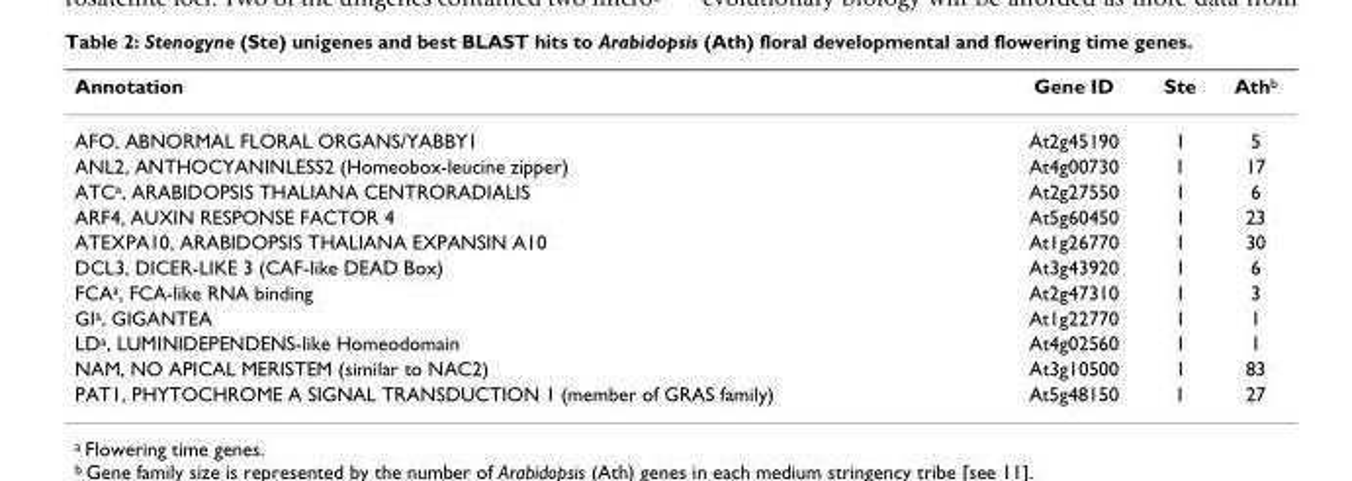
<table><thead><tr><td>Annotation</td><td>Gene ID</td><td>Ste</td><td>Athb</td></tr></thead><tbody><tr><td>AFO, ABNORMAL FLORAL ORGANS/YABBY1</td><td>At2g45190</td><td>1</td><td>5</td></tr><tr><td>ANL2, ANTHOCYANINLESS2 (Homeobox-leucine zipper)</td><td>At4g00730</td><td>1</td><td>17</td></tr><tr><td>ATCa, ARABIDOPSIS THALIANA CENTRORADIALIS</td><td>At2g27550</td><td>1</td><td>6</td></tr><tr><td>ARF4, AUXIN RESPONSE FACTOR 4</td><td>At5g60450</td><td>1</td><td>23</td></tr><tr><td>ATEXPA10, ARABIDOPSIS THALIANA EXPANSIN A10</td><td>At1g26770</td><td>1</td><td>30</td></tr><tr><td>DCL3, DICER-LIKE 3 (CAF-like DEAD Box)</td><td>At3g43920</td><td>1</td><td>6</td></tr><tr><td>FCAa, FCA-like RNA binding</td><td>At2g47310</td><td>1</td><td>3</td></tr><tr><td>GIa, GIGANTEA</td><td>At1g22770</td><td>1</td><td>1</td></tr><tr><td>LDa, LUMINIDEPENDENS-like Homeodomain</td><td>At4g02560</td><td>1</td><td>1</td></tr><tr><td>NAM, NO APICAL MERISTEM (similar to NAC2)</td><td>At3g10500</td><td>1</td><td>83</td></tr><tr><td>PAT1, PHYTOCHROME A SIGNAL TRANSDUCTION 1 (member of GRAS family)</td><td>At5g48150</td><td>1</td><td>27</td></tr></tbody></table>